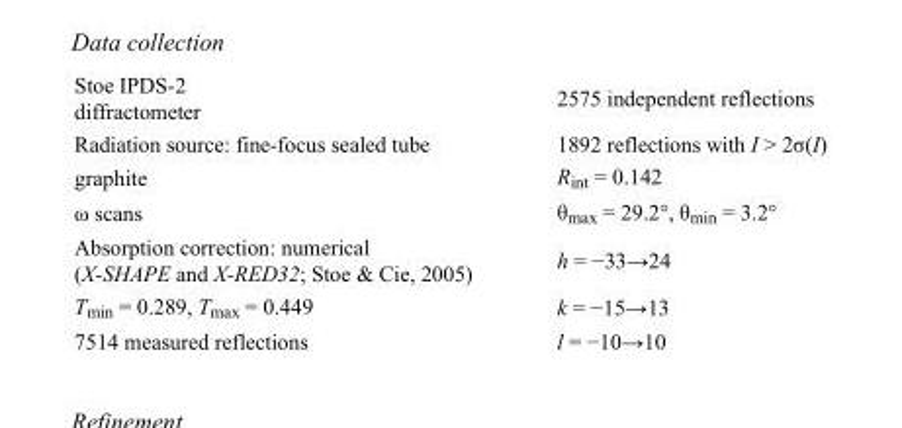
<table><tbody><tr><td>Stoe IPDS-2 diffractometer</td><td>2575 independent reflections</td></tr><tr><td>Radiation source: fine-focus sealed tube</td><td>1892 reflections with I &gt; 2σ(I)</td></tr><tr><td>graphite</td><td>R<sub>int</sub> = 0.142</td></tr><tr><td>ω scans</td><td>θ<sub>max</sub> = 29.2°, θ<sub>min</sub> = 3.2°</td></tr><tr><td>Absorption correction: numerical (X-SHAPE and X-RED32; Stoe &amp; Cie, 2005)</td><td>h = −33→24</td></tr><tr><td>T<sub>min</sub> = 0.289, T<sub>max</sub> = 0.449</td><td>k = −15→13</td></tr><tr><td>7514 measured reflections</td><td>l = −10→10</td></tr></tbody></table>